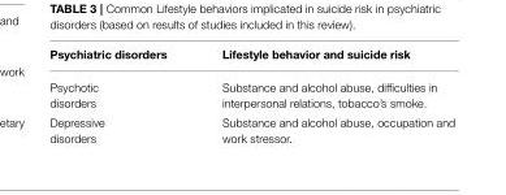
<table><thead><tr><td>Psychiatric disorders</td><td>Lifestyle behavior and suicide risk</td></tr></thead><tbody><tr><td>Psychotic disorders</td><td>Substance and alcohol abuse, difficulties in interpersonal relations, tobacco’s smoke.</td></tr><tr><td>Depressive disorders</td><td>Substance and alcohol abuse, occupation and work stressor.</td></tr></tbody></table>